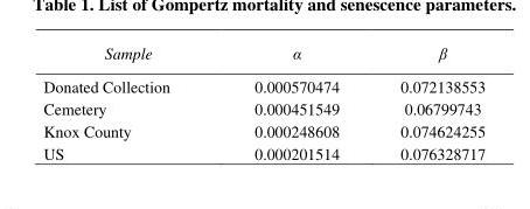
<table><thead><tr><td>Sample</td><td>α</td><td>β</td></tr></thead><tbody><tr><td>Donated Collection</td><td>0.000570474</td><td>0.072138553</td></tr><tr><td>Cemetery</td><td>0.000451549</td><td>0.06799743</td></tr><tr><td>Knox County</td><td>0.000248608</td><td>0.074624255</td></tr><tr><td>US</td><td>0.000201514</td><td>0.076328717</td></tr></tbody></table>